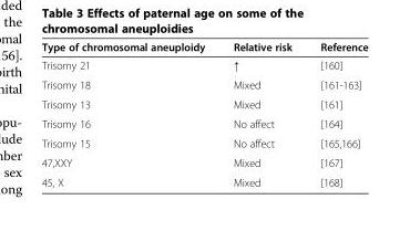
<table><thead><tr><td>Type of chromosomal aneuploidy</td><td>Relative risk</td><td>Reference</td></tr></thead><tbody><tr><td>Trisomy 21</td><td>↑</td><td>[160]</td></tr><tr><td>Trisomy 18</td><td>Mixed</td><td>[161-163]</td></tr><tr><td>Trisomy 13</td><td>Mixed</td><td>[161]</td></tr><tr><td>Trisomy 16</td><td>No affect</td><td>[164]</td></tr><tr><td>Trisomy 15</td><td>No affect</td><td>[165,166]</td></tr><tr><td>47,XXY</td><td>Mixed</td><td>[167]</td></tr><tr><td>45, X</td><td>Mixed</td><td>[168]</td></tr></tbody></table>